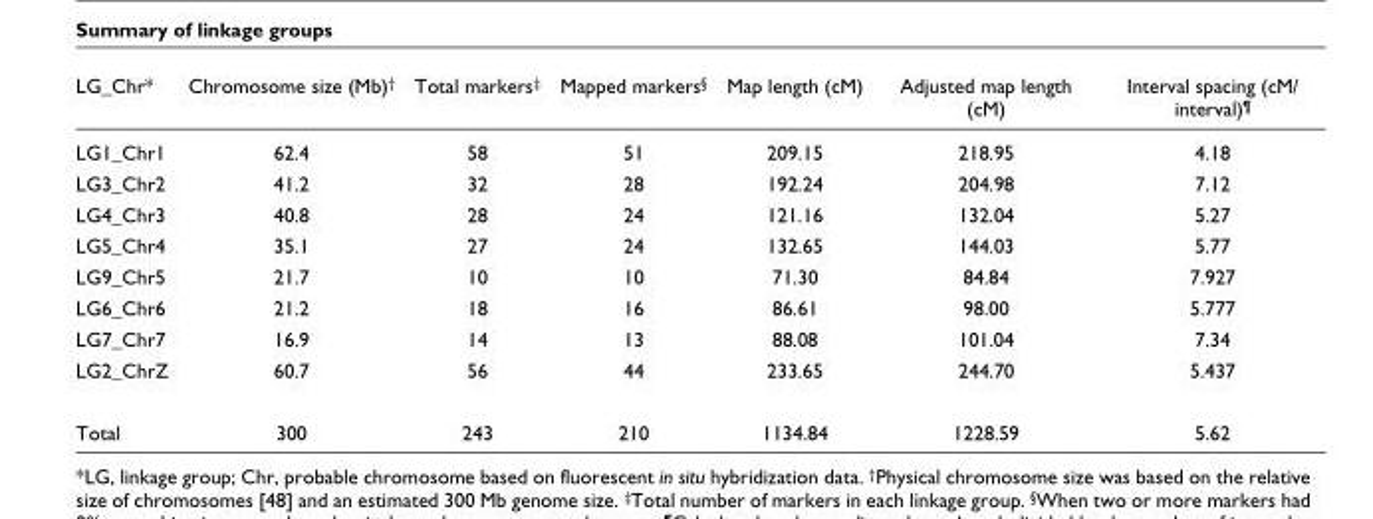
<table><thead><tr><td>LG_Chr*</td><td>Chromosome size (Mb)<sup>†</sup></td><td>Total markers<sup>‡</sup></td><td>Mapped markers<sup>§</sup></td><td>Map length (cM)</td><td>Adjusted map length (cM)</td><td>Interval spacing (cM/ interval)<sup>¶</sup></td></tr></thead><tbody><tr><td>LG1_Chr1</td><td>62.4</td><td>58</td><td>51</td><td>209.15</td><td>218.95</td><td>4.18</td></tr><tr><td>LG3_Chr2</td><td>41.2</td><td>32</td><td>28</td><td>192.24</td><td>204.98</td><td>7.12</td></tr><tr><td>LG4_Chr3</td><td>40.8</td><td>28</td><td>24</td><td>121.16</td><td>132.04</td><td>5.27</td></tr><tr><td>LG5_Chr4</td><td>35.1</td><td>27</td><td>24</td><td>132.65</td><td>144.03</td><td>5.77</td></tr><tr><td>LG9_Chr5</td><td>21.7</td><td>10</td><td>10</td><td>71.30</td><td>84.84</td><td>7.927</td></tr><tr><td>LG6_Chr6</td><td>21.2</td><td>18</td><td>16</td><td>86.61</td><td>98.00</td><td>5.777</td></tr><tr><td>LG7_Chr7</td><td>16.9</td><td>14</td><td>13</td><td>88.08</td><td>101.04</td><td>7.34</td></tr><tr><td>LG2_ChrZ</td><td>60.7</td><td>56</td><td>44</td><td>233.65</td><td>244.70</td><td>5.437</td></tr><tr><td>Total</td><td>300</td><td>243</td><td>210</td><td>1134.84</td><td>1228.59</td><td>5.62</td></tr></tbody></table>